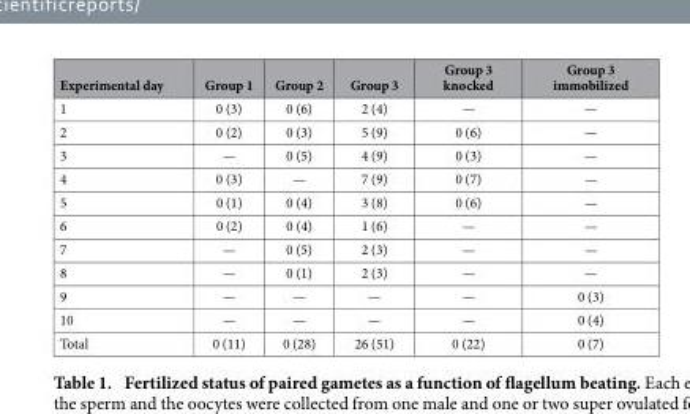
<table><thead><tr><td>Experimental day</td><td>Group 1</td><td>Group 2</td><td>Group 3</td><td>Group 3 knocked</td><td>Group 3 immobilized</td></tr></thead><tbody><tr><td>1</td><td>0 (3)</td><td>0 (6)</td><td>2 (4)</td><td>—</td><td>—</td></tr><tr><td>2</td><td>0 (2)</td><td>0 (3)</td><td>5 (9)</td><td>0 (6)</td><td>—</td></tr><tr><td>3</td><td>—</td><td>0 (5)</td><td>4 (9)</td><td>0 (3)</td><td>—</td></tr><tr><td>4</td><td>0 (3)</td><td>—</td><td>7 (9)</td><td>0 (7)</td><td>—</td></tr><tr><td>5</td><td>0 (1)</td><td>0 (4)</td><td>3 (8)</td><td>0 (6)</td><td>—</td></tr><tr><td>6</td><td>0 (2)</td><td>0 (4)</td><td>1 (6)</td><td>—</td><td>—</td></tr><tr><td>7</td><td>—</td><td>0 (5)</td><td>2 (3)</td><td>—</td><td>—</td></tr><tr><td>8</td><td>—</td><td>0 (1)</td><td>2 (3)</td><td>—</td><td>—</td></tr><tr><td>9</td><td>—</td><td>—</td><td>—</td><td>—</td><td>0 (3)</td></tr><tr><td>10</td><td>—</td><td>—</td><td>—</td><td>—</td><td>0 (4)</td></tr><tr><td>Total</td><td>0 (11)</td><td>0 (28)</td><td>26 (51)</td><td>0 (22)</td><td>0 (7)</td></tr></tbody></table>